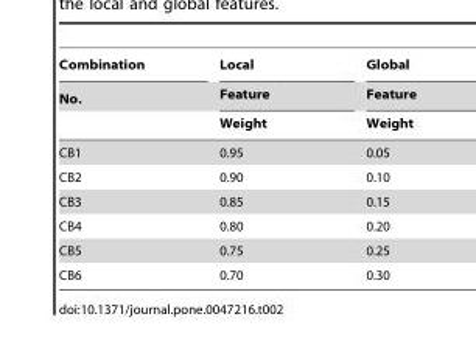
<table><thead><tr><td rowspan="3">Combination No.</td><td rowspan="3">Local Feature Weight</td><td rowspan="3">Global Feature Weight</td></tr><tr></tr><tr></tr></thead><tbody><tr><td>CB1</td><td>0.95</td><td>0.05</td></tr><tr><td>CB2</td><td>0.90</td><td>0.10</td></tr><tr><td>CB3</td><td>0.85</td><td>0.15</td></tr><tr><td>CB4</td><td>0.80</td><td>0.20</td></tr><tr><td>CB5</td><td>0.75</td><td>0.25</td></tr><tr><td>CB6</td><td>0.70</td><td>0.30</td></tr></tbody></table>